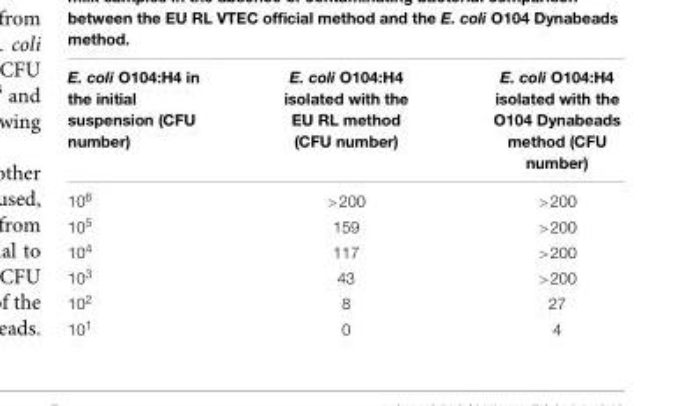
<table><thead><tr><td>E. coli O104:H4 in the initial suspension (CFU number)</td><td>E. coli O104:H4 isolated with the EU RL method (CFU number)</td><td>E. coli O104:H4 isolated with the O104 Dynabeads method (CFU number)</td></tr></thead><tbody><tr><td>10<sup>6</sup></td><td>&gt;200</td><td>&gt;200</td></tr><tr><td>10<sup>5</sup></td><td>159</td><td>&gt;200</td></tr><tr><td>10<sup>4</sup></td><td>117</td><td>&gt;200</td></tr><tr><td>10<sup>3</sup></td><td>43</td><td>&gt;200</td></tr><tr><td>10<sup>2</sup></td><td>8</td><td>27</td></tr><tr><td>10<sup>1</sup></td><td>0</td><td>4</td></tr></tbody></table>